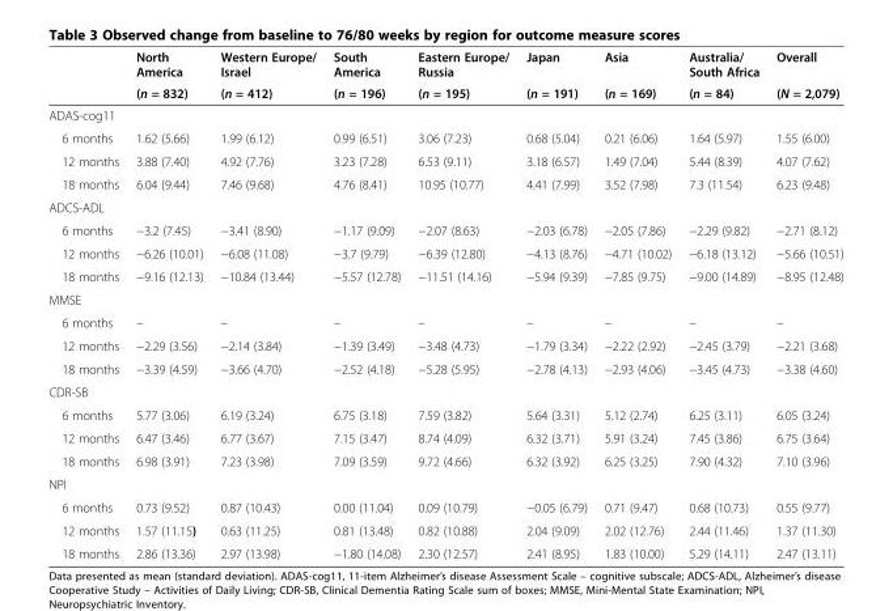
<table><thead><tr><td rowspan="2"></td><td rowspan="2">North America (n = 832)</td><td rowspan="2">Western Europe/ Israel (n = 412)</td><td rowspan="2">South America (n = 196)</td><td rowspan="2">Eastern Europe/ Russia (n = 195)</td><td rowspan="2">Japan (n = 191)</td><td rowspan="2">Asia (n = 169)</td><td rowspan="2">Australia/ South Africa (n = 84)</td><td rowspan="2">Overall (N = 2,079)</td></tr><tr></tr></thead><tbody><tr><td colspan="9">ADAS-cog11</td></tr><tr><td>6 months</td><td>1.62 (5.66)</td><td>1.99 (6.12)</td><td>0.99 (6.51)</td><td>3.06 (7.23)</td><td>0.68 (5.04)</td><td>0.21 (6.06)</td><td>1.64 (5.97)</td><td>1.55 (6.00)</td></tr><tr><td>12 months</td><td>3.88 (7.40)</td><td>4.92 (7.76)</td><td>3.23 (7.28)</td><td>6.53 (9.11)</td><td>3.18 (6.57)</td><td>1.49 (7.04)</td><td>5.44 (8.39)</td><td>4.07 (7.62)</td></tr><tr><td>18 months</td><td>6.04 (9.44)</td><td>7.46 (9.68)</td><td>4.76 (8.41)</td><td>10.95 (10.77)</td><td>4.41 (7.99)</td><td>3.52 (7.98)</td><td>7.3 (11.54)</td><td>6.23 (9.48)</td></tr><tr><td colspan="9">ADCS-ADL</td></tr><tr><td>6 months</td><td>−3.2 (7.45)</td><td>−3.41 (8.90)</td><td>−1.17 (9.09)</td><td>−2.07 (8.63)</td><td>−2.03 (6.78)</td><td>−2.05 (7.86)</td><td>−2.29 (9.82)</td><td>−2.71 (8.12)</td></tr><tr><td>12 months</td><td>−6.26 (10.01)</td><td>−6.08 (11.08)</td><td>−3.7 (9.79)</td><td>−6.39 (12.80)</td><td>−4.13 (8.76)</td><td>−4.71 (10.02)</td><td>−6.18 (13.12)</td><td>−5.66 (10.51)</td></tr><tr><td>18 months</td><td>−9.16 (12.13)</td><td>−10.84 (13.44)</td><td>−5.57 (12.78)</td><td>−11.51 (14.16)</td><td>−5.94 (9.39)</td><td>−7.85 (9.75)</td><td>−9.00 (14.89)</td><td>−8.95 (12.48)</td></tr><tr><td colspan="9">MMSE</td></tr><tr><td>6 months</td><td>–</td><td>–</td><td>–</td><td>–</td><td>–</td><td>–</td><td>–</td><td>–</td></tr><tr><td>12 months</td><td>−2.29 (3.56)</td><td>−2.14 (3.84)</td><td>−1.39 (3.49)</td><td>−3.48 (4.73)</td><td>−1.79 (3.34)</td><td>−2.22 (2.92)</td><td>−2.45 (3.79)</td><td>−2.21 (3.68)</td></tr><tr><td>18 months</td><td>−3.39 (4.59)</td><td>−3.66 (4.70)</td><td>−2.52 (4.18)</td><td>−5.28 (5.95)</td><td>−2.78 (4.13)</td><td>−2.93 (4.06)</td><td>−3.45 (4.73)</td><td>−3.38 (4.60)</td></tr><tr><td colspan="9">CDR-SB</td></tr><tr><td>6 months</td><td>5.77 (3.06)</td><td>6.19 (3.24)</td><td>6.75 (3.18)</td><td>7.59 (3.82)</td><td>5.64 (3.31)</td><td>5.12 (2.74)</td><td>6.25 (3.11)</td><td>6.05 (3.24)</td></tr><tr><td>12 months</td><td>6.47 (3.46)</td><td>6.77 (3.67)</td><td>7.15 (3.47)</td><td>8.74 (4.09)</td><td>6.32 (3.71)</td><td>5.91 (3.24)</td><td>7.45 (3.86)</td><td>6.75 (3.64)</td></tr><tr><td>18 months</td><td>6.98 (3.91)</td><td>7.23 (3.98)</td><td>7.09 (3.59)</td><td>9.72 (4.66)</td><td>6.32 (3.92)</td><td>6.25 (3.25)</td><td>7.90 (4.32)</td><td>7.10 (3.96)</td></tr><tr><td colspan="9">NPI</td></tr><tr><td>6 months</td><td>0.73 (9.52)</td><td>0.87 (10.43)</td><td>0.00 (11.04)</td><td>0.09 (10.79)</td><td>−0.05 (6.79)</td><td>0.71 (9.47)</td><td>0.68 (10.73)</td><td>0.55 (9.77)</td></tr><tr><td>12 months</td><td>1.57 (11.15)</td><td>0.63 (11.25)</td><td>0.81 (13.48)</td><td>0.82 (10.88)</td><td>2.04 (9.09)</td><td>2.02 (12.76)</td><td>2.44 (11.46)</td><td>1.37 (11.30)</td></tr><tr><td>18 months</td><td>2.86 (13.36)</td><td>2.97 (13.98)</td><td>−1.80 (14.08)</td><td>2.30 (12.57)</td><td>2.41 (8.95)</td><td>1.83 (10.00)</td><td>5.29 (14.11)</td><td>2.47 (13.11)</td></tr></tbody></table>